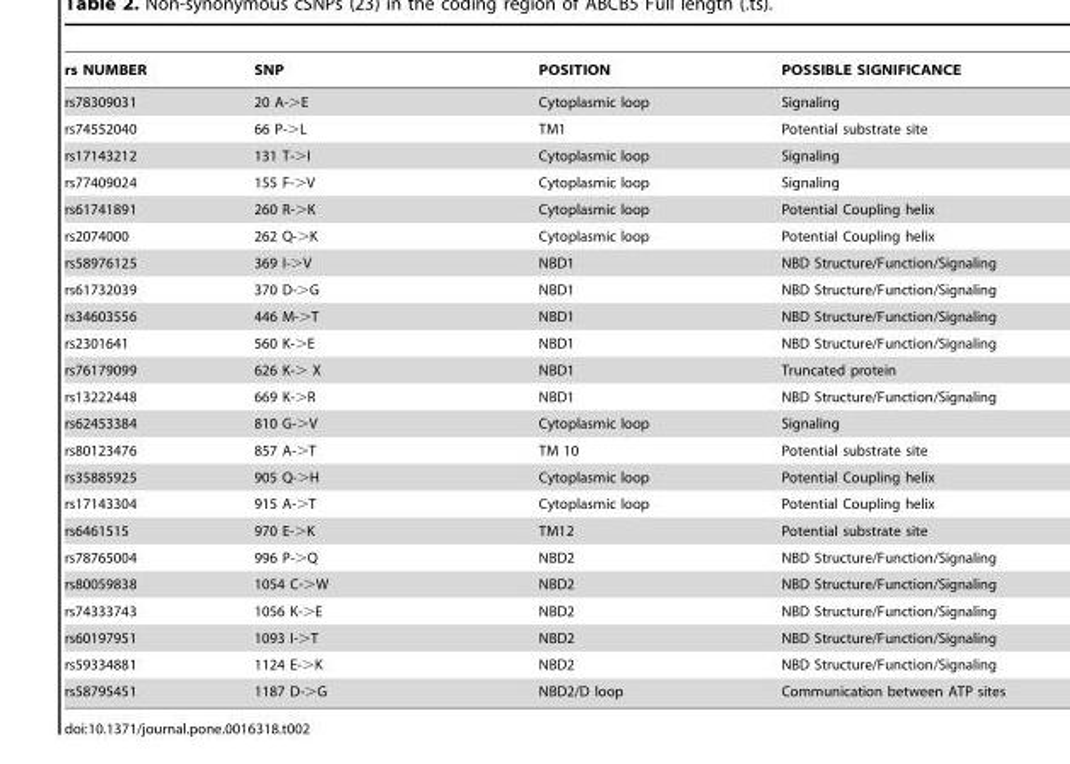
<table><thead><tr><td>rs NUMBER</td><td>SNP</td><td>POSITION</td><td>POSSIBLE SIGNIFICANCE</td></tr></thead><tbody><tr><td>rs78309031</td><td>20 A-&gt;E</td><td>Cytoplasmic loop</td><td>Signaling</td></tr><tr><td>rs74552040</td><td>66 P-&gt;L</td><td>TM1</td><td>Potential substrate site</td></tr><tr><td>rs17143212</td><td>131 T-&gt;I</td><td>Cytoplasmic loop</td><td>Signaling</td></tr><tr><td>rs77409024</td><td>155 F-&gt;V</td><td>Cytoplasmic loop</td><td>Signaling</td></tr><tr><td>rs61741891</td><td>260 R-&gt;K</td><td>Cytoplasmic loop</td><td>Potential Coupling helix</td></tr><tr><td>rs2074000</td><td>262 Q-&gt;K</td><td>Cytoplasmic loop</td><td>Potential Coupling helix</td></tr><tr><td>rs58976125</td><td>369 I-&gt;V</td><td>NBD1</td><td>NBD Structure/Function/Signaling</td></tr><tr><td>rs61732039</td><td>370 D-&gt;G</td><td>NBD1</td><td>NBD Structure/Function/Signaling</td></tr><tr><td>rs34603556</td><td>446 M-&gt;T</td><td>NBD1</td><td>NBD Structure/Function/Signaling</td></tr><tr><td>rs2301641</td><td>560 K-&gt;E</td><td>NBD1</td><td>NBD Structure/Function/Signaling</td></tr><tr><td>rs76179099</td><td>626 K-&gt; X</td><td>NBD1</td><td>Truncated protein</td></tr><tr><td>rs13222448</td><td>669 K-&gt;R</td><td>NBD1</td><td>NBD Structure/Function/Signaling</td></tr><tr><td>rs62453384</td><td>810 G-&gt;V</td><td>Cytoplasmic loop</td><td>Signaling</td></tr><tr><td>rs80123476</td><td>857 A-&gt;T</td><td>TM 10</td><td>Potential substrate site</td></tr><tr><td>rs35885925</td><td>905 Q-&gt;H</td><td>Cytoplasmic loop</td><td>Potential Coupling helix</td></tr><tr><td>rs17143304</td><td>915 A-&gt;T</td><td>Cytoplasmic loop</td><td>Potential Coupling helix</td></tr><tr><td>rs6461515</td><td>970 E-&gt;K</td><td>TM12</td><td>Potential substrate site</td></tr><tr><td>rs78765004</td><td>996 P-&gt;Q</td><td>NBD2</td><td>NBD Structure/Function/Signaling</td></tr><tr><td>rs80059838</td><td>1054 C-&gt;W</td><td>NBD2</td><td>NBD Structure/Function/Signaling</td></tr><tr><td>rs74333743</td><td>1056 K-&gt;E</td><td>NBD2</td><td>NBD Structure/Function/Signaling</td></tr><tr><td>rs60197951</td><td>1093 I-&gt;T</td><td>NBD2</td><td>NBD Structure/Function/Signaling</td></tr><tr><td>rs59334881</td><td>1124 E-&gt;K</td><td>NBD2</td><td>NBD Structure/Function/Signaling</td></tr><tr><td>rs58795451</td><td>1187 D-&gt;G</td><td>NBD2/D loop</td><td>Communication between ATP sites</td></tr></tbody></table>